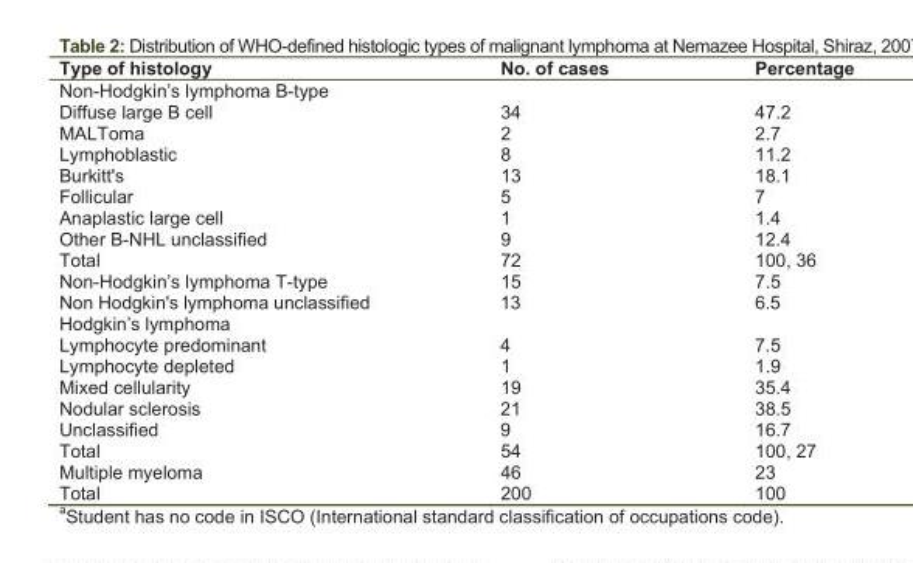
<table><thead><tr><td>Type of histology</td><td>No. of cases</td><td>Percentage</td></tr></thead><tbody><tr><td colspan="3">Non-Hodgkin’s lymphoma B-type</td></tr><tr><td>Diffuse large B cell</td><td>34</td><td>47.2</td></tr><tr><td>MALToma</td><td>2</td><td>2.7</td></tr><tr><td>Lymphoblastic</td><td>8</td><td>11.2</td></tr><tr><td>Burkitt&#x27;s</td><td>13</td><td>18.1</td></tr><tr><td>Follicular</td><td>5</td><td>7</td></tr><tr><td>Anaplastic large cell</td><td>1</td><td>1.4</td></tr><tr><td>Other B-NHL unclassified</td><td>9</td><td>12.4</td></tr><tr><td>Total</td><td>72</td><td>100, 36</td></tr><tr><td>Non-Hodgkin’s lymphoma T-type</td><td>15</td><td>7.5</td></tr><tr><td>Non Hodgkin&#x27;s lymphoma unclassified</td><td>13</td><td>6.5</td></tr><tr><td colspan="3">Hodgkin’s lymphoma</td></tr><tr><td>Lymphocyte predominant</td><td>4</td><td>7.5</td></tr><tr><td>Lymphocyte depleted</td><td>1</td><td>1.9</td></tr><tr><td>Mixed cellularity</td><td>19</td><td>35.4</td></tr><tr><td>Nodular sclerosis</td><td>21</td><td>38.5</td></tr><tr><td>Unclassified</td><td>9</td><td>16.7</td></tr><tr><td>Total</td><td>54</td><td>100, 27</td></tr><tr><td>Multiple myeloma</td><td>46</td><td>23</td></tr><tr><td>Total</td><td>200</td><td>100</td></tr></tbody></table>